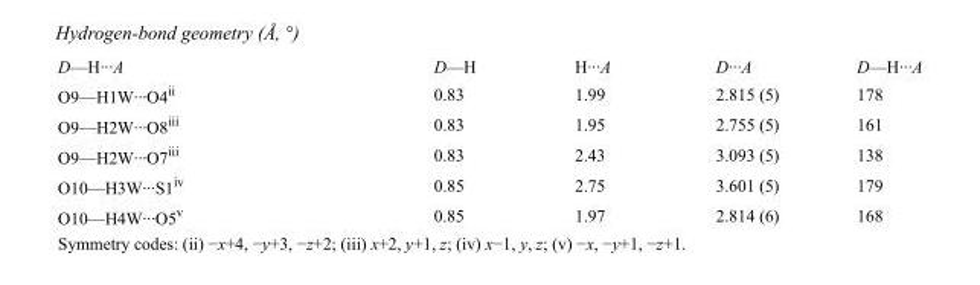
<table><tbody><tr><td>D—H···A</td><td>D—H</td><td>H···A</td><td>D···A</td><td>D—H···A</td></tr><tr><td>O9—H1W···O4<sup>ii</sup></td><td>0.83</td><td>1.99</td><td>2.815 (5)</td><td>178</td></tr><tr><td>O9—H2W···O8<sup>iii</sup></td><td>0.83</td><td>1.95</td><td>2.755 (5)</td><td>161</td></tr><tr><td>O9—H2W···O7<sup>iii</sup></td><td>0.83</td><td>2.43</td><td>3.093 (5)</td><td>138</td></tr><tr><td>O10—H3W···S1<sup>iv</sup></td><td>0.85</td><td>2.75</td><td>3.601 (5)</td><td>179</td></tr><tr><td>O10—H4W···O5<sup>v</sup></td><td>0.85</td><td>1.97</td><td>2.814 (6)</td><td>168</td></tr></tbody></table>